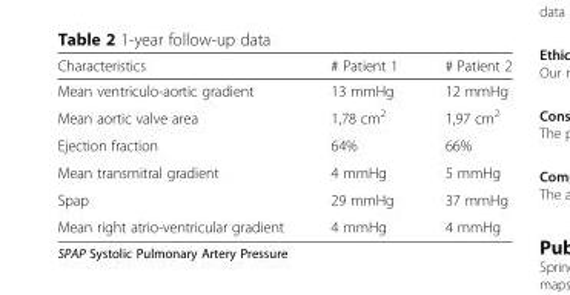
<table><thead><tr><td>Characteristics</td><td># Patient 1</td><td># Patient 2</td></tr></thead><tbody><tr><td>Mean ventriculo-aortic gradient</td><td>13 mmHg</td><td>12 mmHg</td></tr><tr><td>Mean aortic valve area</td><td>1,78 cm<sup>2</sup></td><td>1,97 cm<sup>2</sup></td></tr><tr><td>Ejection fraction</td><td>64%</td><td>66%</td></tr><tr><td>Mean transmitral gradient</td><td>4 mmHg</td><td>5 mmHg</td></tr><tr><td>Spap</td><td>29 mmHg</td><td>37 mmHg</td></tr><tr><td>Mean right atrio-ventricular gradient</td><td>4 mmHg</td><td>4 mmHg</td></tr></tbody></table>